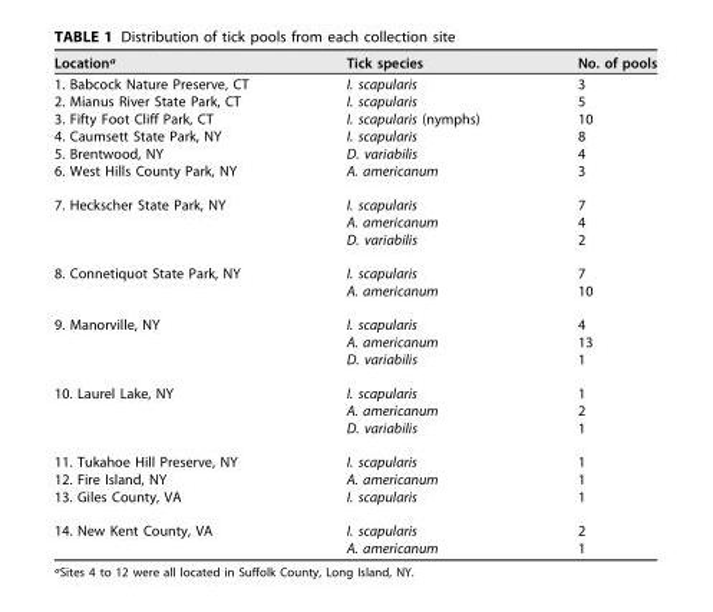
<table><thead><tr><td>Location<sup>a</sup></td><td>Tick species</td><td>No. of pools</td></tr></thead><tbody><tr><td>1. Babcock Nature Preserve, CT</td><td>I. scapularis</td><td>3</td></tr><tr><td>2. Mianus River State Park, CT</td><td>I. scapularis</td><td>5</td></tr><tr><td>3. Fifty Foot Cliff Park, CT</td><td>I. scapularis (nymphs)</td><td>10</td></tr><tr><td>4. Caumsett State Park, NY</td><td>I. scapularis</td><td>8</td></tr><tr><td>5. Brentwood, NY</td><td>D. variabilis</td><td>4</td></tr><tr><td>6. West Hills County Park, NY</td><td>A. americanum</td><td>3</td></tr><tr><td rowspan="3">7. Heckscher State Park, NY</td><td>I. scapularis</td><td>7</td></tr><tr><td>A. americanum</td><td>4</td></tr><tr><td>D. variabilis</td><td>2</td></tr><tr><td rowspan="2">8. Connetiquot State Park, NY</td><td>I. scapularis</td><td>7</td></tr><tr><td>A. americanum</td><td>10</td></tr><tr><td rowspan="3">9. Manorville, NY</td><td>I. scapularis</td><td>4</td></tr><tr><td>A. americanum</td><td>13</td></tr><tr><td>D. variabilis</td><td>1</td></tr><tr><td rowspan="3">10. Laurel Lake, NY</td><td>I. scapularis</td><td>1</td></tr><tr><td>A. americanum</td><td>2</td></tr><tr><td>D. variabilis</td><td>1</td></tr><tr><td>11. Tukahoe Hill Preserve, NY</td><td>I. scapularis</td><td>1</td></tr><tr><td>12. Fire Island, NY</td><td>A. americanum</td><td>1</td></tr><tr><td>13. Giles County, VA</td><td>I. scapularis</td><td>1</td></tr><tr><td rowspan="2">14. New Kent County, VA</td><td>I. scapularis</td><td>2</td></tr><tr><td>A. americanum</td><td>1</td></tr></tbody></table>